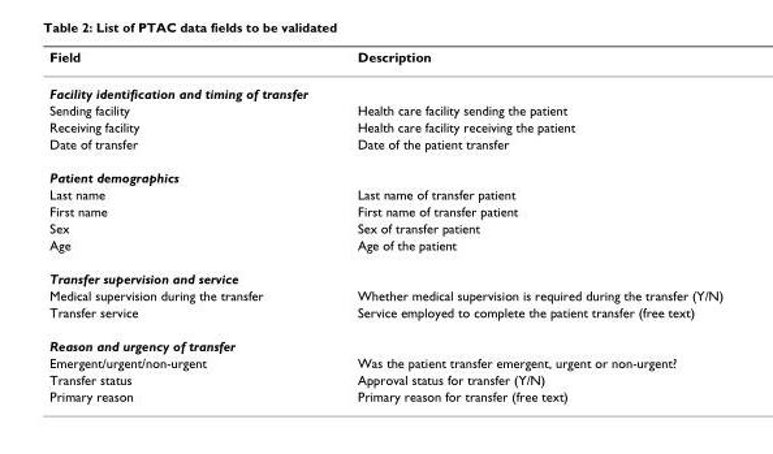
<table><thead><tr><td>Field</td><td>Description</td></tr></thead><tbody><tr><td colspan="2">Facility identification and timing of transfer</td></tr><tr><td>Sending facility</td><td>Health care facility sending the patient</td></tr><tr><td>Receiving facility</td><td>Health care facility receiving the patient</td></tr><tr><td>Date of transfer</td><td>Date of the patient transfer</td></tr><tr><td colspan="2">Patient demographics</td></tr><tr><td>Last name</td><td>Last name of transfer patient</td></tr><tr><td>First name</td><td>First name of transfer patient</td></tr><tr><td>Sex</td><td>Sex of transfer patient</td></tr><tr><td>Age</td><td>Age of the patient</td></tr><tr><td colspan="2">Transfer supervision and service</td></tr><tr><td>Medical supervision during the transfer</td><td>Whether medical supervision is required during the transfer (Y/N)</td></tr><tr><td>Transfer service</td><td>Service employed to complete the patient transfer (free text)</td></tr><tr><td colspan="2">Reason and urgency of transfer</td></tr><tr><td>Emergent/urgent/non-urgent</td><td>Was the patient transfer emergent, urgent or non-urgent?</td></tr><tr><td>Transfer status</td><td>Approval status for transfer (Y/N)</td></tr><tr><td>Primary reason</td><td>Primary reason for transfer (free text)</td></tr></tbody></table>